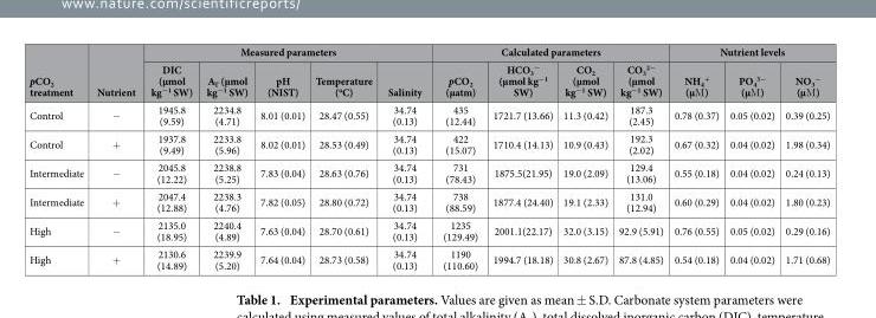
<table><thead><tr><td rowspan="2">pCO<sub>2</sub> treatment</td><td rowspan="2">Nutrient</td><td colspan="5">Measured parameters</td><td colspan="4">Calculated parameters</td><td colspan="3">Nutrient levels</td></tr><tr><td>DIC (μmol kg<sup>−1</sup> SW)</td><td>A<sub>T</sub> (μmol kg<sup>−1</sup> SW)</td><td>pH (NIST)</td><td>Temperature (°C)</td><td>Salinity</td><td>pCO<sub>2</sub> (μatm)</td><td>HCO<sub>3</sub> <sup>−</sup> (μmol kg<sup>−1</sup> SW)</td><td>CO<sub>2</sub> (μmol kg<sup>−1</sup> SW)</td><td>CO<sub>3</sub> <sup>2−</sup> (μmol kg<sup>−1</sup> SW)</td><td>NH<sub>4</sub> <sup>+</sup> (μΜ )</td><td>PO<sub>4</sub> <sup>3−</sup> (μΜ )</td><td>NO<sub>3</sub> <sup>−</sup> (μΜ )</td></tr></thead><tbody><tr><td>Control</td><td>−</td><td>1945.8 (9.59)</td><td>2234.8 (4.71)</td><td>8.01 (0.01)</td><td>28.47 (0.55)</td><td>34.74 (0.13)</td><td>435 (12.44)</td><td>1721.7 (13.66)</td><td>11.3 (0.42)</td><td>187.3 (2.45)</td><td>0.78 (0.37)</td><td>0.05 (0.02)</td><td>0.39 (0.25)</td></tr><tr><td>Control</td><td>+</td><td>1937.8 (9.49)</td><td>2233.8 (5.96)</td><td>8.02 (0.01)</td><td>28.53 (0.49)</td><td>34.74 (0.13)</td><td>422 (15.07)</td><td>1710.4 (14.13)</td><td>10.9 (0.43)</td><td>192.3 (2.02)</td><td>0.67 (0.32)</td><td>0.04 (0.02)</td><td>1.98 (0.34)</td></tr><tr><td>Intermediate</td><td>−</td><td>2045.8 (12.22)</td><td>2238.8 (5.25)</td><td>7.83 (0.04)</td><td>28.63 (0.76)</td><td>34.74 (0.13)</td><td>731 (78.43)</td><td>1875.5(21.95)</td><td>19.0 (2.09)</td><td>129.4 (13.06)</td><td>0.55 (0.18)</td><td>0.04 (0.02)</td><td>0.24 (0.13)</td></tr><tr><td>Intermediate</td><td>+</td><td>2047.4 (12.88)</td><td>2238.3 (4.76)</td><td>7.82 (0.05)</td><td>28.80 (0.72)</td><td>34.74 (0.13)</td><td>738 (88.59)</td><td>1877.4 (24.40)</td><td>19.1 (2.33)</td><td>131.0 (12.94)</td><td>0.60 (0.29)</td><td>0.04 (0.02)</td><td>1.80 (0.23)</td></tr><tr><td>High</td><td>−</td><td>2135.0 (18.95)</td><td>2240.4 (4.89)</td><td>7.63 (0.04)</td><td>28.70 (0.61)</td><td>34.74 (0.13)</td><td>1235 (129.49)</td><td>2001.1(22.17)</td><td>32.0 (3.15)</td><td>92.9 (5.91)</td><td>0.76 (0.55)</td><td>0.05 (0.02)</td><td>0.29 (0.16)</td></tr><tr><td>High</td><td>+</td><td>2130.6 (14.89)</td><td>2239.9 (5.20)</td><td>7.64 (0.04)</td><td>28.73 (0.58)</td><td>34.74 (0.13)</td><td>1190 (110.60)</td><td>1994.7 (18.18)</td><td>30.8 (2.67)</td><td>87.8 (4.85)</td><td>0.54 (0.18)</td><td>0.04 (0.02)</td><td>1.71 (0.68)</td></tr></tbody></table>